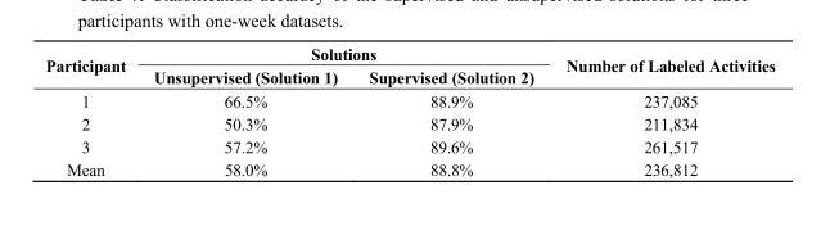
<table><thead><tr><td rowspan="2">Participant</td><td colspan="2">Solutions</td><td rowspan="2">Number of Labeled Activities</td></tr><tr><td>Unsupervised (Solution 1)</td><td>Supervised (Solution 2)</td></tr></thead><tbody><tr><td>1</td><td>66.5%</td><td>88.9%</td><td>237,085</td></tr><tr><td>2</td><td>50.3%</td><td>87.9%</td><td>211,834</td></tr><tr><td>3</td><td>57.2%</td><td>89.6%</td><td>261,517</td></tr><tr><td>Mean</td><td>58.0%</td><td>88.8%</td><td>236,812</td></tr></tbody></table>